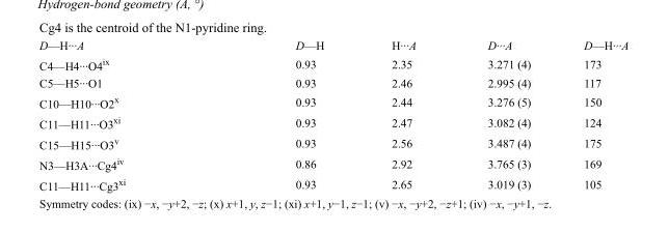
<table><tbody><tr><td>D—H···A</td><td>D—H</td><td>H···A</td><td>D···A</td><td>D—H···A</td></tr><tr><td>C4—H4···O4<sup>ix</sup></td><td>0.93</td><td>2.35</td><td>3.271 (4)</td><td>173</td></tr><tr><td>C5—H5···O1</td><td>0.93</td><td>2.46</td><td>2.995 (4)</td><td>117</td></tr><tr><td>C10—H10···O2<sup>x</sup></td><td>0.93</td><td>2.44</td><td>3.276 (5)</td><td>150</td></tr><tr><td>C11—H11···O3<sup>xi</sup></td><td>0.93</td><td>2.47</td><td>3.082 (4)</td><td>124</td></tr><tr><td>C15—H15···O3<sup>v</sup></td><td>0.93</td><td>2.56</td><td>3.487 (4)</td><td>175</td></tr><tr><td>N3—H3A···Cg4<sup>iv</sup></td><td>0.86</td><td>2.92</td><td>3.765 (3)</td><td>169</td></tr><tr><td>C11—H11···Cg3<sup>xi</sup></td><td>0.93</td><td>2.65</td><td>3.019 (3)</td><td>105</td></tr></tbody></table>